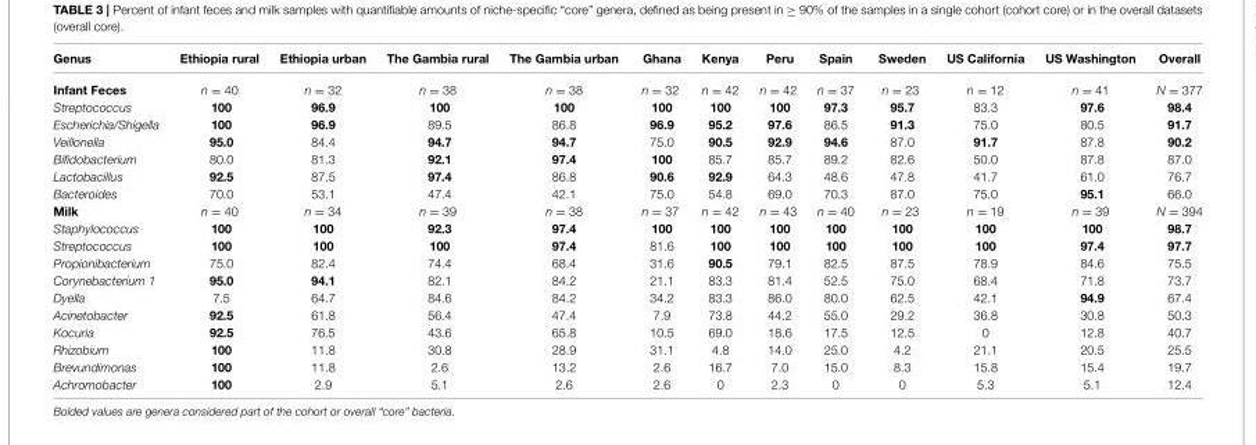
<table><thead><tr><td>Genus</td><td>Ethiopia rural</td><td>Ethiopia urban</td><td>The Gambia rural</td><td>The Gambia urban</td><td>Ghana</td><td>Kenya</td><td>Peru</td><td>Spain</td><td>Sweden</td><td>US California</td><td>US Washington</td><td>Overall</td></tr></thead><tbody><tr><td>Infant Feces</td><td>n = 40</td><td>n = 32</td><td>n = 38</td><td>n = 38</td><td>n = 32</td><td>n = 42</td><td>n = 42</td><td>n = 37</td><td>n = 23</td><td>n = 12</td><td>n = 41</td><td>N = 377</td></tr><tr><td>Streptococcus</td><td>100</td><td>96.9</td><td>100</td><td>100</td><td>100</td><td>100</td><td>100</td><td>97.3</td><td>95.7</td><td>83.3</td><td>97.6</td><td>98.4</td></tr><tr><td>Escherichia/Shigella</td><td>100</td><td>96.9</td><td>89.5</td><td>86.8</td><td>96.9</td><td>95.2</td><td>97.6</td><td>86.5</td><td>91.3</td><td>75.0</td><td>80.5</td><td>91.7</td></tr><tr><td>Veillonella</td><td>95.0</td><td>84.4</td><td>94.7</td><td>94.7</td><td>75.0</td><td>90.5</td><td>92.9</td><td>94.6</td><td>87.0</td><td>91.7</td><td>87.8</td><td>90.2</td></tr><tr><td>Bifidobacterium</td><td>80.0</td><td>81.3</td><td>92.1</td><td>97.4</td><td>100</td><td>85.7</td><td>85.7</td><td>89.2</td><td>82.6</td><td>50.0</td><td>87.8</td><td>87.0</td></tr><tr><td>Lactobacillus</td><td>92.5</td><td>87.5</td><td>97.4</td><td>86.8</td><td>90.6</td><td>92.9</td><td>64.3</td><td>48.6</td><td>47.8</td><td>41.7</td><td>61.0</td><td>76.7</td></tr><tr><td>Bacteroides</td><td>70.0</td><td>53.1</td><td>47.4</td><td>42.1</td><td>75.0</td><td>54.8</td><td>69.0</td><td>70.3</td><td>87.0</td><td>75.0</td><td>95.1</td><td>66.0</td></tr><tr><td>Milk</td><td>n = 40</td><td>n = 34</td><td>n = 39</td><td>n = 38</td><td>n = 37</td><td>n = 42</td><td>n = 43</td><td>n = 40</td><td>n = 23</td><td>n = 19</td><td>n = 39</td><td>N = 394</td></tr><tr><td>Staphylococcus</td><td>100</td><td>100</td><td>92.3</td><td>97.4</td><td>100</td><td>100</td><td>100</td><td>100</td><td>100</td><td>100</td><td>100</td><td>98.7</td></tr><tr><td>Streptococcus</td><td>100</td><td>100</td><td>100</td><td>97.4</td><td>81.6</td><td>100</td><td>100</td><td>100</td><td>100</td><td>100</td><td>97.4</td><td>97.7</td></tr><tr><td>Propionibacterium</td><td>75.0</td><td>82.4</td><td>74.4</td><td>68.4</td><td>31.6</td><td>90.5</td><td>79.1</td><td>82.5</td><td>87.5</td><td>78.9</td><td>84.6</td><td>75.5</td></tr><tr><td>Corynebacterium 1</td><td>95.0</td><td>94.1</td><td>82.1</td><td>84.2</td><td>21.1</td><td>83.3</td><td>81.4</td><td>52.5</td><td>75.0</td><td>68.4</td><td>71.8</td><td>73.7</td></tr><tr><td>Dyella</td><td>7.5</td><td>64.7</td><td>84.6</td><td>84.2</td><td>34.2</td><td>83.3</td><td>86.0</td><td>80.0</td><td>62.5</td><td>42.1</td><td>94.9</td><td>67.4</td></tr><tr><td>Acinetobacter</td><td>92.5</td><td>61.8</td><td>56.4</td><td>47.4</td><td>7.9</td><td>73.8</td><td>44.2</td><td>55.0</td><td>29.2</td><td>36.8</td><td>30.8</td><td>50.3</td></tr><tr><td>Kocuria</td><td>92.5</td><td>76.5</td><td>43.6</td><td>65.8</td><td>10.5</td><td>69.0</td><td>18.6</td><td>17.5</td><td>12.5</td><td>0</td><td>12.8</td><td>40.7</td></tr><tr><td>Rhizobium</td><td>100</td><td>11.8</td><td>30.8</td><td>28.9</td><td>31.1</td><td>4.8</td><td>14.0</td><td>25.0</td><td>4.2</td><td>21.1</td><td>20.5</td><td>25.5</td></tr><tr><td>Brevundimonas</td><td>100</td><td>11.8</td><td>2.6</td><td>13.2</td><td>2.6</td><td>16.7</td><td>7.0</td><td>15.0</td><td>8.3</td><td>15.8</td><td>15.4</td><td>19.7</td></tr><tr><td>Achromobacter</td><td>100</td><td>2.9</td><td>5.1</td><td>2.6</td><td>2.6</td><td>0</td><td>2.3</td><td>0</td><td>0</td><td>5.3</td><td>5.1</td><td>12.4</td></tr></tbody></table>